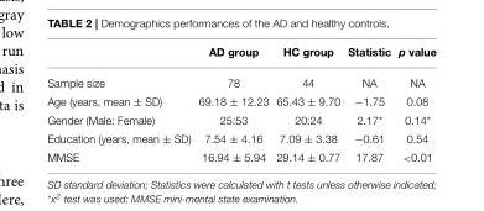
<table><thead><tr><td></td><td>AD group</td><td>HC group</td><td>Statistic</td><td>p value</td></tr></thead><tbody><tr><td>Sample size</td><td>78</td><td>44</td><td>NA</td><td>NA</td></tr><tr><td>Age (years, mean ± SD)</td><td>69.18 ± 12.23</td><td>65.43 ± 9.70</td><td>−1.75</td><td>0.08</td></tr><tr><td>Gender (Male: Female)</td><td>25:53</td><td>20:24</td><td>2.17*</td><td>0.14*</td></tr><tr><td>Education (years, mean ± SD)</td><td>7.54 ± 4.16</td><td>7.09 ± 3.38</td><td>−0.61</td><td>0.54</td></tr><tr><td>MMSE</td><td>16.94 ± 5.94</td><td>29.14 ± 0.77</td><td>17.87</td><td>&lt;0.01</td></tr></tbody></table>